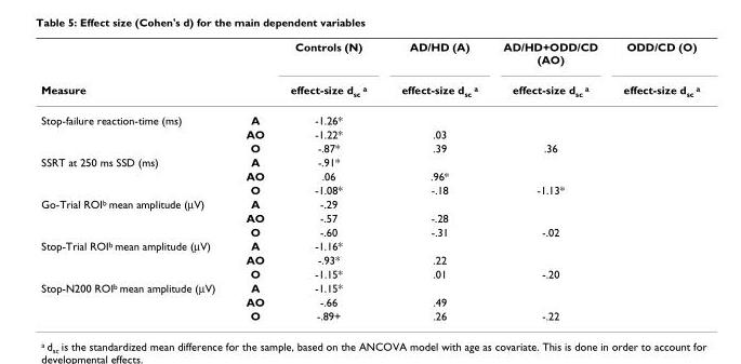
<table><thead><tr><td rowspan="2">Measure</td><td rowspan="2"></td><td rowspan="2">Controls (N) effect-size d<sub>sc</sub> <sup>a</sup></td><td rowspan="2">AD/HD (A) effect-size d<sub>sc</sub> <sup>a</sup></td><td rowspan="2">AD/HD+ODD/CD (AO) effect-size d<sub>sc</sub> <sup>a</sup></td><td rowspan="2">ODD/CD (O) effect-size d<sub>sc</sub> <sup>a</sup></td></tr><tr></tr></thead><tbody><tr><td rowspan="3">Stop-failure reaction-time (ms)</td><td>A</td><td>-1.26*</td><td></td><td></td><td></td></tr><tr><td>AO</td><td>-1.22*</td><td>.03</td><td></td><td></td></tr><tr><td>O</td><td>-.87*</td><td>.39</td><td>.36</td><td></td></tr><tr><td rowspan="3">SSRT at 250 ms SSD (ms)</td><td>A</td><td>-.91*</td><td></td><td></td><td></td></tr><tr><td>AO</td><td>.06</td><td>.96*</td><td></td><td></td></tr><tr><td>O</td><td>-1.08*</td><td>-.18</td><td>-1.13*</td><td></td></tr><tr><td rowspan="3">Go-Trial ROI<sup>b</sup> mean amplitude (µV)</td><td>A</td><td>-.29</td><td></td><td></td><td></td></tr><tr><td>AO</td><td>-.57</td><td>-.28</td><td></td><td></td></tr><tr><td>O</td><td>-.60</td><td>-.31</td><td>-.02</td><td></td></tr><tr><td rowspan="3">Stop-Trial ROI<sup>b</sup> mean amplitude (µV)</td><td>A</td><td>-1.16*</td><td></td><td></td><td></td></tr><tr><td>AO</td><td>-.93*</td><td>.22</td><td></td><td></td></tr><tr><td>O</td><td>-1.15*</td><td>.01</td><td>-.20</td><td></td></tr><tr><td rowspan="3">Stop-N200 ROI<sup>b</sup> mean amplitude (µV)</td><td>A</td><td>-1.15*</td><td></td><td></td><td></td></tr><tr><td>AO</td><td>-.66</td><td>.49</td><td></td><td></td></tr><tr><td>O</td><td>-.89+</td><td>.26</td><td>-.22</td><td></td></tr></tbody></table>